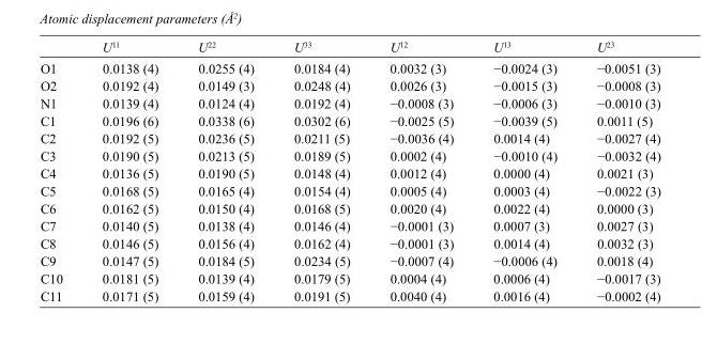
<table><thead><tr><td></td><td>U<sup>11</sup></td><td>U<sup>22</sup></td><td>U<sup>33</sup></td><td>U<sup>12</sup></td><td>U<sup>13</sup></td><td>U<sup>23</sup></td></tr></thead><tbody><tr><td>O1</td><td>0.0138 (4)</td><td>0.0255 (4)</td><td>0.0184 (4)</td><td>0.0032 (3)</td><td>−0.0024 (3)</td><td>−0.0051 (3)</td></tr><tr><td>O2</td><td>0.0192 (4)</td><td>0.0149 (3)</td><td>0.0248 (4)</td><td>0.0026 (3)</td><td>−0.0015 (3)</td><td>−0.0008 (3)</td></tr><tr><td>N1</td><td>0.0139 (4)</td><td>0.0124 (4)</td><td>0.0192 (4)</td><td>−0.0008 (3)</td><td>−0.0006 (3)</td><td>−0.0010 (3)</td></tr><tr><td>C1</td><td>0.0196 (6)</td><td>0.0338 (6)</td><td>0.0302 (6)</td><td>−0.0025 (5)</td><td>−0.0039 (5)</td><td>0.0011 (5)</td></tr><tr><td>C2</td><td>0.0192 (5)</td><td>0.0236 (5)</td><td>0.0211 (5)</td><td>−0.0036 (4)</td><td>0.0014 (4)</td><td>−0.0027 (4)</td></tr><tr><td>C3</td><td>0.0190 (5)</td><td>0.0213 (5)</td><td>0.0189 (5)</td><td>0.0002 (4)</td><td>−0.0010 (4)</td><td>−0.0032 (4)</td></tr><tr><td>C4</td><td>0.0136 (5)</td><td>0.0190 (5)</td><td>0.0148 (4)</td><td>0.0012 (4)</td><td>0.0000 (4)</td><td>0.0021 (3)</td></tr><tr><td>C5</td><td>0.0168 (5)</td><td>0.0165 (4)</td><td>0.0154 (4)</td><td>0.0005 (4)</td><td>0.0003 (4)</td><td>−0.0022 (3)</td></tr><tr><td>C6</td><td>0.0162 (5)</td><td>0.0150 (4)</td><td>0.0168 (5)</td><td>0.0020 (4)</td><td>0.0022 (4)</td><td>0.0000 (3)</td></tr><tr><td>C7</td><td>0.0140 (5)</td><td>0.0138 (4)</td><td>0.0146 (4)</td><td>−0.0001 (3)</td><td>0.0007 (3)</td><td>0.0027 (3)</td></tr><tr><td>C8</td><td>0.0146 (5)</td><td>0.0156 (4)</td><td>0.0162 (4)</td><td>−0.0001 (3)</td><td>0.0014 (4)</td><td>0.0032 (3)</td></tr><tr><td>C9</td><td>0.0147 (5)</td><td>0.0184 (5)</td><td>0.0234 (5)</td><td>−0.0007 (4)</td><td>−0.0006 (4)</td><td>0.0018 (4)</td></tr><tr><td>C10</td><td>0.0181 (5)</td><td>0.0139 (4)</td><td>0.0179 (5)</td><td>0.0004 (4)</td><td>0.0006 (4)</td><td>−0.0017 (3)</td></tr><tr><td>C11</td><td>0.0171 (5)</td><td>0.0159 (4)</td><td>0.0191 (5)</td><td>0.0040 (4)</td><td>0.0016 (4)</td><td>−0.0002 (4)</td></tr></tbody></table>